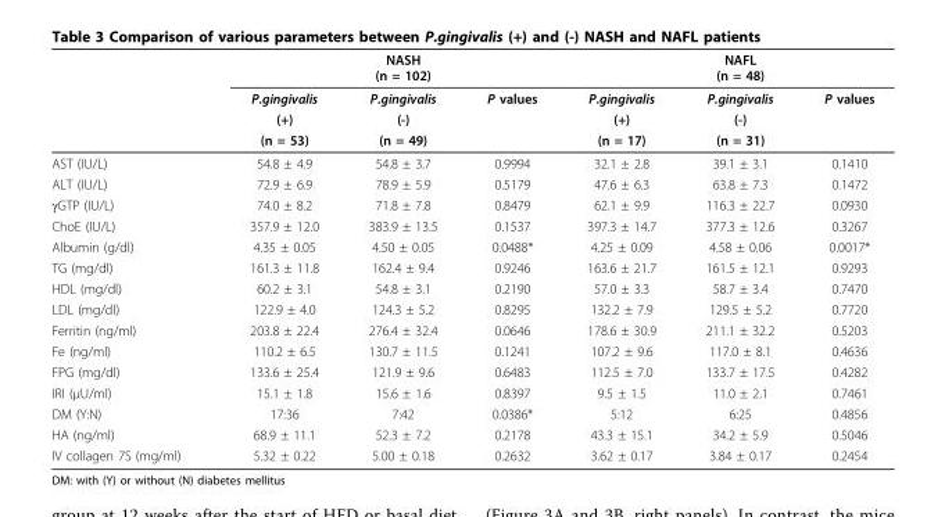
<table><thead><tr><td rowspan="4"></td><td rowspan="4">P.gingivalis (+) (n = 53)</td><td rowspan="4">NASH (n = 102) P.gingivalis (-) (n = 49)</td><td rowspan="4">P values</td><td rowspan="4">P.gingivalis (+) (n = 17)</td><td rowspan="4">NAFL (n = 48) P.gingivalis (-) (n = 31)</td><td rowspan="4">P values</td></tr><tr></tr><tr></tr><tr></tr></thead><tbody><tr><td>AST (IU/L)</td><td>54.8 ± 4.9</td><td>54.8 ± 3.7</td><td>0.9994</td><td>32.1 ± 2.8</td><td>39.1 ± 3.1</td><td>0.1410</td></tr><tr><td>ALT (IU/L)</td><td>72.9 ± 6.9</td><td>78.9 ± 5.9</td><td>0.5179</td><td>47.6 ± 6.3</td><td>63.8 ± 7.3</td><td>0.1472</td></tr><tr><td>γGTP (IU/L)</td><td>74.0 ± 8.2</td><td>71.8 ± 7.8</td><td>0.8479</td><td>62.1 ± 9.9</td><td>116.3 ± 22.7</td><td>0.0930</td></tr><tr><td>ChoE (IU/L)</td><td>357.9 ± 12.0</td><td>383.9 ± 13.5</td><td>0.1537</td><td>397.3 ± 14.7</td><td>377.3 ± 12.6</td><td>0.3267</td></tr><tr><td>Albumin (g/dl)</td><td>4.35 ± 0.05</td><td>4.50 ± 0.05</td><td>0.0488*</td><td>4.25 ± 0.09</td><td>4.58 ± 0.06</td><td>0.0017*</td></tr><tr><td>TG (mg/dl)</td><td>161.3 ± 11.8</td><td>162.4 ± 9.4</td><td>0.9246</td><td>163.6 ± 21.7</td><td>161.5 ± 12.1</td><td>0.9293</td></tr><tr><td>HDL (mg/dl)</td><td>60.2 ± 3.1</td><td>54.8 ± 3.1</td><td>0.2190</td><td>57.0 ± 3.3</td><td>58.7 ± 3.4</td><td>0.7470</td></tr><tr><td>LDL (mg/dl)</td><td>122.9 ± 4.0</td><td>124.3 ± 5.2</td><td>0.8295</td><td>132.2 ± 7.9</td><td>129.5 ± 5.2</td><td>0.7720</td></tr><tr><td>Ferritin (ng/ml)</td><td>203.8 ± 22.4</td><td>276.4 ± 32.4</td><td>0.0646</td><td>178.6 ± 30.9</td><td>211.1 ± 32.2</td><td>0.5203</td></tr><tr><td>Fe (ng/ml)</td><td>110.2 ± 6.5</td><td>130.7 ± 11.5</td><td>0.1241</td><td>107.2 ± 9.6</td><td>117.0 ± 8.1</td><td>0.4636</td></tr><tr><td>FPG (mg/dl)</td><td>133.6 ± 25.4</td><td>121.9 ± 9.6</td><td>0.6483</td><td>112.5 ± 7.0</td><td>133.7 ± 17.5</td><td>0.4282</td></tr><tr><td>IRI (μU/ml)</td><td>15.1 ± 1.8</td><td>15.6 ± 1.6</td><td>0.8397</td><td>9.5 ± 1.5</td><td>11.0 ± 2.1</td><td>0.7461</td></tr><tr><td>DM (Y:N)</td><td>17:36</td><td>7:42</td><td>0.0386*</td><td>5:12</td><td>6:25</td><td>0.4856</td></tr><tr><td>HA (ng/ml)</td><td>68.9 ± 11.1</td><td>52.3 ± 7.2</td><td>0.2178</td><td>43.3 ± 15.1</td><td>34.2 ± 5.9</td><td>0.5046</td></tr><tr><td>IV collagen 7S (mg/ml)</td><td>5.32 ± 0.22</td><td>5.00 ± 0.18</td><td>0.2632</td><td>3.62 ± 0.17</td><td>3.84 ± 0.17</td><td>0.2454</td></tr></tbody></table>